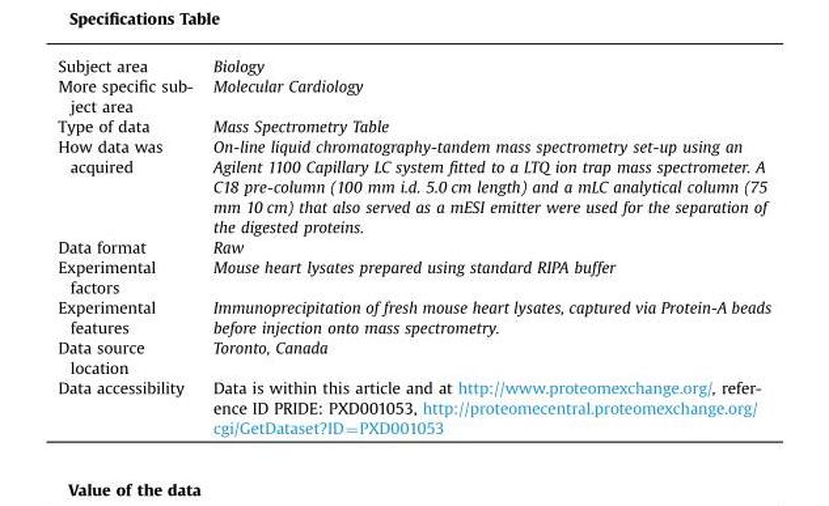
<table><tbody><tr><td>Subject area</td><td>Biology</td></tr><tr><td>More specific sub- ject area</td><td>Molecular Cardiology</td></tr><tr><td>Type of data</td><td>Mass Spectrometry Table</td></tr><tr><td>How data was acquired</td><td>On-line liquid chromatography-tandem mass spectrometry set-up using an Agilent 1100 Capillary LC system fitted to a LTQ ion trap mass spectrometer. A C18 pre-column (100 mm i.d. 5.0 cm length) and a mLC analytical column (75 mm 10 cm) that also served as a mESI emitter were used for the separation of the digested proteins.</td></tr><tr><td>Data format</td><td>Raw</td></tr><tr><td>Experimental factors</td><td>Mouse heart lysates prepared using standard RIPA buffer</td></tr><tr><td>Experimental features</td><td>Immunoprecipitation of fresh mouse heart lysates, captured via Protein-A beads before injection onto mass spectrometry.</td></tr><tr><td>Data source location</td><td>Toronto, Canada</td></tr><tr><td>Data accessibility</td><td>Data is within this article and at http://www.proteomexchange.org/, refer- ence ID PRIDE: PXD001053, http://proteomecentral.proteomexchange.org/ cgi/GetDataset?ID¼PXD001053</td></tr></tbody></table>